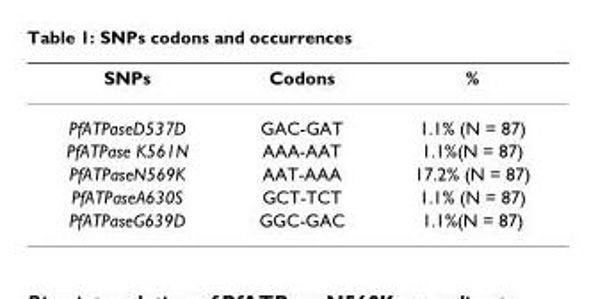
<table><thead><tr><td>SNPs</td><td>Codons</td><td>%</td></tr></thead><tbody><tr><td>PfATPaseD537D</td><td>GAC-GAT</td><td>1.1% (N = 87)</td></tr><tr><td>PfATPase K561N</td><td>AAA-AAT</td><td>1.1%(N = 87)</td></tr><tr><td>PfATPaseN569K</td><td>AAT-AAA</td><td>17.2% (N = 87)</td></tr><tr><td>PfATPaseA630S</td><td>GCT-TCT</td><td>1.1% (N = 87)</td></tr><tr><td>PfATPaseG639D</td><td>GGC-GAC</td><td>1.1%(N = 87)</td></tr></tbody></table>